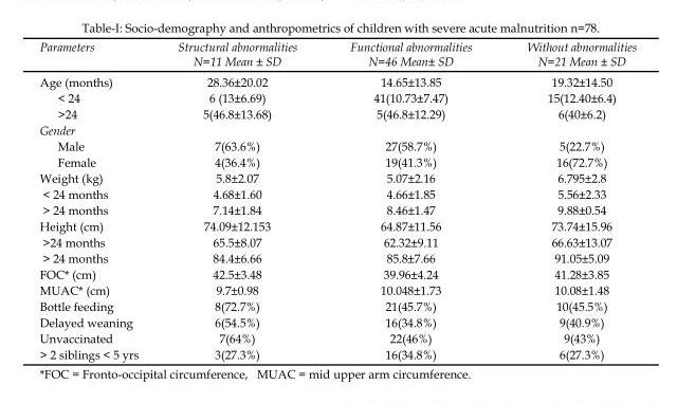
<table><thead><tr><td>Parameters</td><td>Structural abnormalities N=11 Mean ± SD</td><td>Functional abnormalities N=46 Mean± SD</td><td>Without abnormalities N=21 Mean ± SD</td></tr></thead><tbody><tr><td>Age (months)</td><td>28.36±20.02</td><td>14.65±13.85</td><td>19.32±14.50</td></tr><tr><td>&lt; 24</td><td>6 (13±6.69)</td><td>41(10.73±7.47)</td><td>15(12.40±6.4)</td></tr><tr><td>&gt;24</td><td>5(46.8±13.68)</td><td>5(46.8±12.29)</td><td>6(40±6.2)</td></tr><tr><td colspan="4">Gender</td></tr><tr><td>Male</td><td>7(63.6%)</td><td>27(58.7%)</td><td>5(22.7%)</td></tr><tr><td>Female</td><td>4(36.4%)</td><td>19(41.3%)</td><td>16(72.7%)</td></tr><tr><td>Weight (kg)</td><td>5.8±2.07</td><td>5.07±2.16</td><td>6.795±2.8</td></tr><tr><td>&lt; 24 months</td><td>4.68±1.60</td><td>4.66±1.85</td><td>5.56±2.33</td></tr><tr><td>&gt; 24 months</td><td>7.14±1.84</td><td>8.46±1.47</td><td>9.88±0.54</td></tr><tr><td>Height (cm)</td><td>74.09±12.153</td><td>64.87±11.56</td><td>73.74±15.96</td></tr><tr><td>&gt;24 months</td><td>65.5±8.07</td><td>62.32±9.11</td><td>66.63±13.07</td></tr><tr><td>&gt; 24 months</td><td>84.4±6.66</td><td>85.8±7.66</td><td>91.05±5.09</td></tr><tr><td>FOC* (cm)</td><td>42.5±3.48</td><td>39.96±4.24</td><td>41.28±3.85</td></tr><tr><td>MUAC* (cm)</td><td>9.7±0.98</td><td>10.048±1.73</td><td>10.08±1.48</td></tr><tr><td>Bottle feeding</td><td>8(72.7%)</td><td>21(45.7%)</td><td>10(45.5%)</td></tr><tr><td>Delayed weaning</td><td>6(54.5%)</td><td>16(34.8%)</td><td>9(40.9%)</td></tr><tr><td>Unvaccinated</td><td>7(64%)</td><td>22(46%)</td><td>9(43%)</td></tr><tr><td>&gt; 2 siblings &lt; 5 yrs</td><td>3(27.3%)</td><td>16(34.8%)</td><td>6(27.3%)</td></tr></tbody></table>